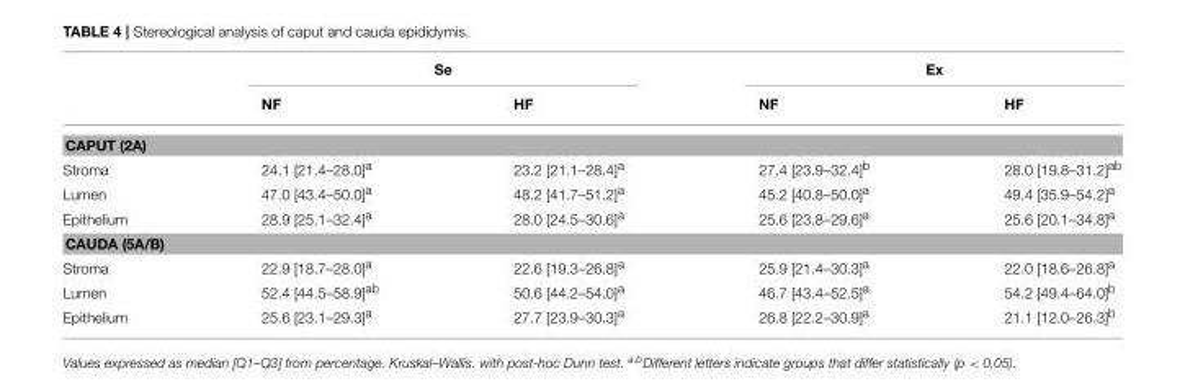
<table><thead><tr><td rowspan="2"></td><td colspan="2">Se</td><td colspan="2">Ex</td></tr><tr><td>NF</td><td>HF</td><td>NF</td><td>HF</td></tr></thead><tbody><tr><td colspan="5">CAPUT (2A)</td></tr><tr><td>Stroma</td><td>24.1 [21.4–28.0]<sup>a</sup></td><td>23.2 [21.1–28.4]<sup>a</sup></td><td>27.4 [23.9–32.4]<sup>b</sup></td><td>28.0 [19.8–31.2]<sup>ab</sup></td></tr><tr><td>Lumen</td><td>47.0 [43.4–50.0]<sup>a</sup></td><td>48.2 [41.7–51.2]<sup>a</sup></td><td>45.2 [40.8–50.0]<sup>a</sup></td><td>49.4 [35.9–54.2]<sup>a</sup></td></tr><tr><td>Epithelium</td><td>28.9 [25.1–32.4]<sup>a</sup></td><td>28.0 [24.5–30.6]<sup>a</sup></td><td>25.6 [23.8–29.6]<sup>a</sup></td><td>25.6 [20.1–34.8]<sup>a</sup></td></tr><tr><td colspan="5">CAUDA (5A/B)</td></tr><tr><td>Stroma</td><td>22.9 [18.7–28.0]<sup>a</sup></td><td>22.6 [19.3–26.8]<sup>a</sup></td><td>25.9 [21.4–30.3]<sup>a</sup></td><td>22.0 [18.6–26.8]<sup>a</sup></td></tr><tr><td>Lumen</td><td>52.4 [44.5–58.9]<sup>ab</sup></td><td>50.6 [44.2–54.0]<sup>a</sup></td><td>46.7 [43.4–52.5]<sup>a</sup></td><td>54.2 [49.4–64.0]<sup>b</sup></td></tr><tr><td>Epithelium</td><td>25.6 [23.1–29.3]<sup>a</sup></td><td>27.7 [23.9–30.3]<sup>a</sup></td><td>26.8 [22.2–30.9]<sup>a</sup></td><td>21.1 [12.0–26.3]<sup>b</sup></td></tr></tbody></table>